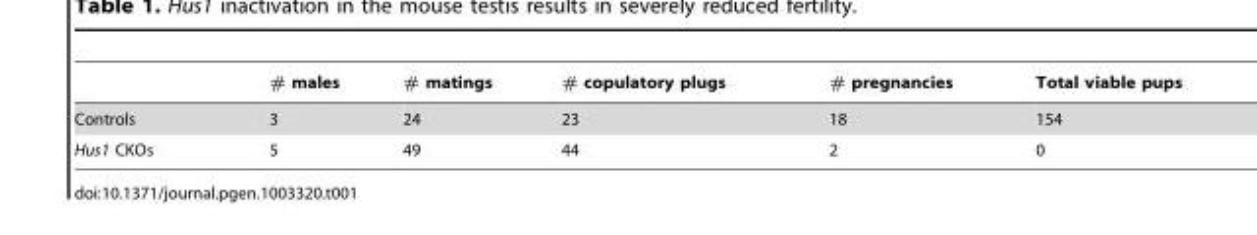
<table><thead><tr><td></td><td># males</td><td># matings</td><td># copulatory plugs</td><td># pregnancies</td><td>Total viable pups</td></tr></thead><tbody><tr><td>Controls</td><td>3</td><td>24</td><td>23</td><td>18</td><td>154</td></tr><tr><td>Hus1 CKOs</td><td>5</td><td>49</td><td>44</td><td>2</td><td>0</td></tr></tbody></table>